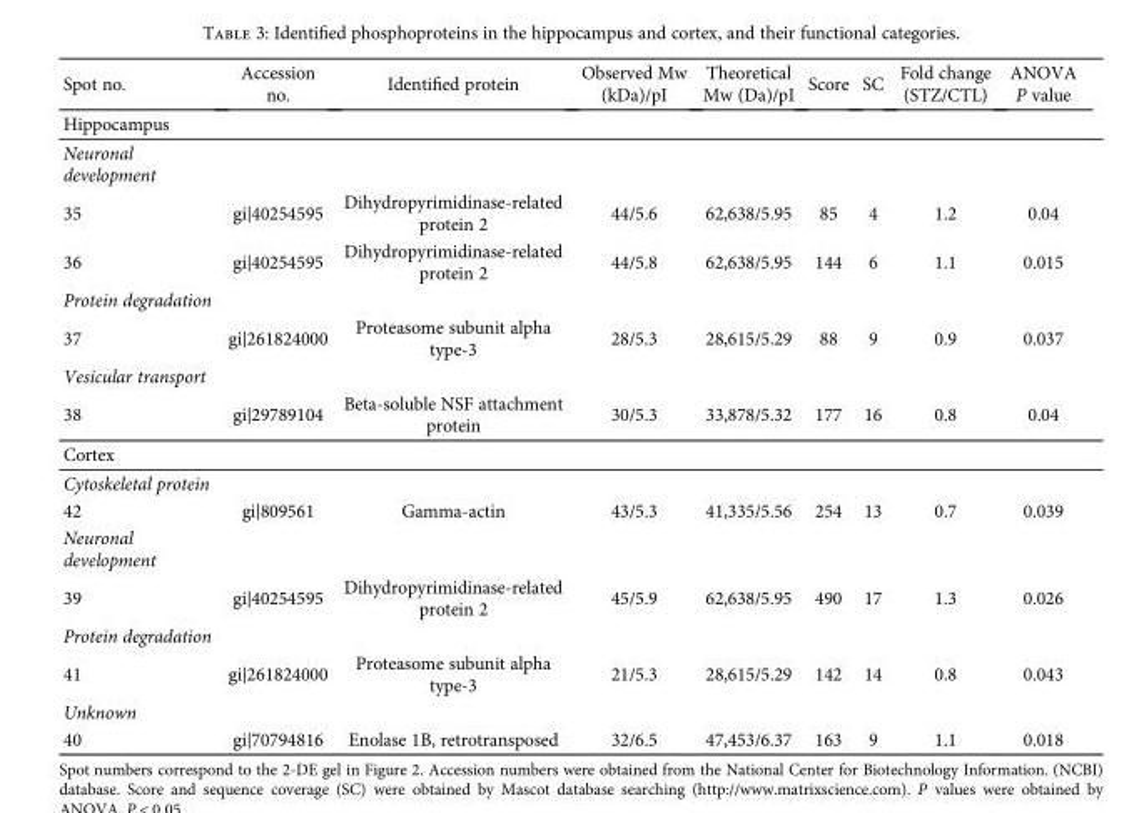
<table><thead><tr><td>Spot no.</td><td>Accession no.</td><td>Identified protein</td><td>Observed Mw (kDa)/pI</td><td>Theoretical Mw (Da)/pI</td><td>Score</td><td>SC</td><td>Fold change (STZ/CTL)</td><td>ANOVA P value</td></tr></thead><tbody><tr><td colspan="9">Hippocampus</td></tr><tr><td colspan="9">Neuronal development</td></tr><tr><td>35</td><td>gi|40254595</td><td>Dihydropyrimidinase-related protein 2</td><td>44/5.6</td><td>62,638/5.95</td><td>85</td><td>4</td><td>1.2</td><td>0.04</td></tr><tr><td>36</td><td>gi|40254595</td><td>Dihydropyrimidinase-related protein 2</td><td>44/5.8</td><td>62,638/5.95</td><td>144</td><td>6</td><td>1.1</td><td>0.015</td></tr><tr><td colspan="9">Protein degradation</td></tr><tr><td>37</td><td>gi|261824000</td><td>Proteasome subunit alpha type-3</td><td>28/5.3</td><td>28,615/5.29</td><td>88</td><td>9</td><td>0.9</td><td>0.037</td></tr><tr><td colspan="9">Vesicular transport</td></tr><tr><td>38</td><td>gi|29789104</td><td>Beta-soluble NSF attachment protein</td><td>30/5.3</td><td>33,878/5.32</td><td>177</td><td>16</td><td>0.8</td><td>0.04</td></tr><tr><td colspan="9">Cortex</td></tr><tr><td colspan="9">Cytoskeletal protein</td></tr><tr><td>42</td><td>gi|809561</td><td>Gamma-actin</td><td>43/5.3</td><td>41,335/5.56</td><td>254</td><td>13</td><td>0.7</td><td>0.039</td></tr><tr><td colspan="9">Neuronal development</td></tr><tr><td>39</td><td>gi|40254595</td><td>Dihydropyrimidinase-related protein 2</td><td>45/5.9</td><td>62,638/5.95</td><td>490</td><td>17</td><td>1.3</td><td>0.026</td></tr><tr><td colspan="9">Protein degradation</td></tr><tr><td>41</td><td>gi|261824000</td><td>Proteasome subunit alpha type-3</td><td>21/5.3</td><td>28,615/5.29</td><td>142</td><td>14</td><td>0.8</td><td>0.043</td></tr><tr><td colspan="9">Unknown</td></tr><tr><td>40</td><td>gi|70794816</td><td>Enolase 1B, retrotransposed</td><td>32/6.5</td><td>47,453/6.37</td><td>163</td><td>9</td><td>1.1</td><td>0.018</td></tr></tbody></table>